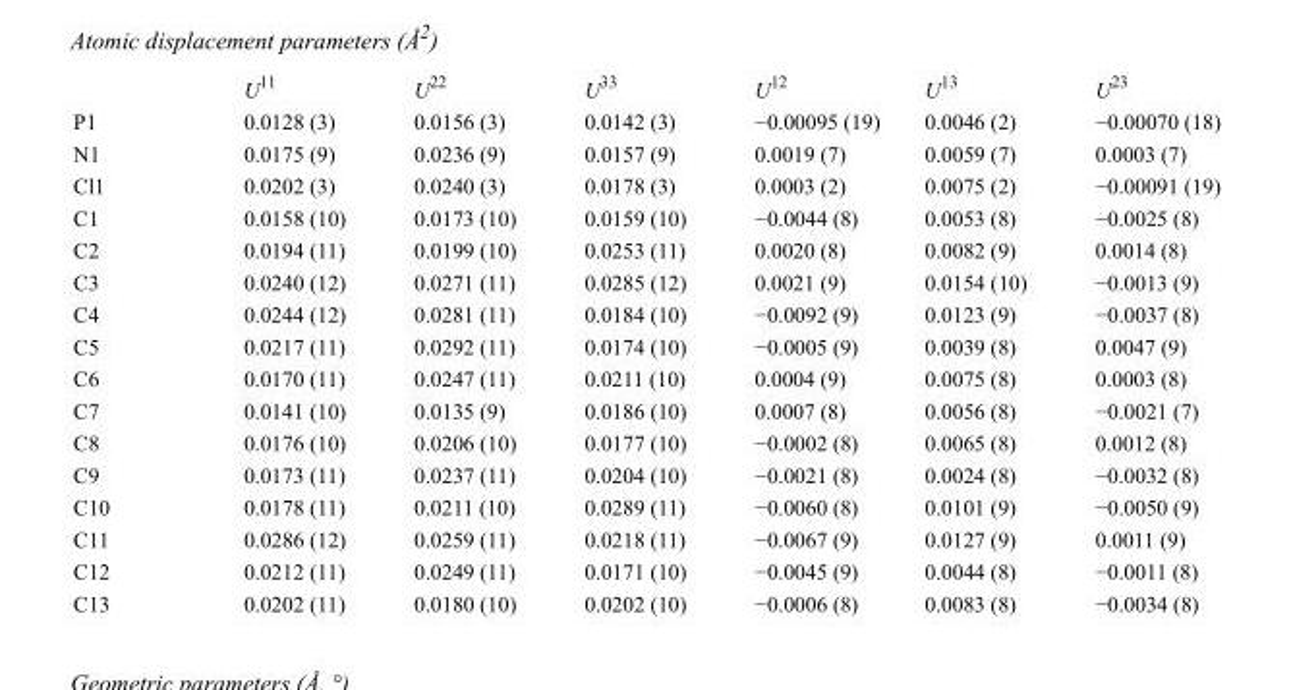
<table><thead><tr><td></td><td>U<sup>11</sup></td><td>U<sup>22</sup></td><td>U<sup>33</sup></td><td>U<sup>12</sup></td><td>U<sup>13</sup></td><td>U<sup>23</sup></td></tr></thead><tbody><tr><td>P1</td><td>0.0128 (3)</td><td>0.0156 (3)</td><td>0.0142 (3)</td><td>−0.00095 (19)</td><td>0.0046 (2)</td><td>−0.00070 (18)</td></tr><tr><td>N1</td><td>0.0175 (9)</td><td>0.0236 (9)</td><td>0.0157 (9)</td><td>0.0019 (7)</td><td>0.0059 (7)</td><td>0.0003 (7)</td></tr><tr><td>Cl1</td><td>0.0202 (3)</td><td>0.0240 (3)</td><td>0.0178 (3)</td><td>0.0003 (2)</td><td>0.0075 (2)</td><td>−0.00091 (19)</td></tr><tr><td>C1</td><td>0.0158 (10)</td><td>0.0173 (10)</td><td>0.0159 (10)</td><td>−0.0044 (8)</td><td>0.0053 (8)</td><td>−0.0025 (8)</td></tr><tr><td>C2</td><td>0.0194 (11)</td><td>0.0199 (10)</td><td>0.0253 (11)</td><td>0.0020 (8)</td><td>0.0082 (9)</td><td>0.0014 (8)</td></tr><tr><td>C3</td><td>0.0240 (12)</td><td>0.0271 (11)</td><td>0.0285 (12)</td><td>0.0021 (9)</td><td>0.0154 (10)</td><td>−0.0013 (9)</td></tr><tr><td>C4</td><td>0.0244 (12)</td><td>0.0281 (11)</td><td>0.0184 (10)</td><td>−0.0092 (9)</td><td>0.0123 (9)</td><td>−0.0037 (8)</td></tr><tr><td>C5</td><td>0.0217 (11)</td><td>0.0292 (11)</td><td>0.0174 (10)</td><td>−0.0005 (9)</td><td>0.0039 (8)</td><td>0.0047 (9)</td></tr><tr><td>C6</td><td>0.0170 (11)</td><td>0.0247 (11)</td><td>0.0211 (10)</td><td>0.0004 (9)</td><td>0.0075 (8)</td><td>0.0003 (8)</td></tr><tr><td>C7</td><td>0.0141 (10)</td><td>0.0135 (9)</td><td>0.0186 (10)</td><td>0.0007 (8)</td><td>0.0056 (8)</td><td>−0.0021 (7)</td></tr><tr><td>C8</td><td>0.0176 (10)</td><td>0.0206 (10)</td><td>0.0177 (10)</td><td>−0.0002 (8)</td><td>0.0065 (8)</td><td>0.0012 (8)</td></tr><tr><td>C9</td><td>0.0173 (11)</td><td>0.0237 (11)</td><td>0.0204 (10)</td><td>−0.0021 (8)</td><td>0.0024 (8)</td><td>−0.0032 (8)</td></tr><tr><td>C10</td><td>0.0178 (11)</td><td>0.0211 (10)</td><td>0.0289 (11)</td><td>−0.0060 (8)</td><td>0.0101 (9)</td><td>−0.0050 (9)</td></tr><tr><td>C11</td><td>0.0286 (12)</td><td>0.0259 (11)</td><td>0.0218 (11)</td><td>−0.0067 (9)</td><td>0.0127 (9)</td><td>0.0011 (9)</td></tr><tr><td>C12</td><td>0.0212 (11)</td><td>0.0249 (11)</td><td>0.0171 (10)</td><td>−0.0045 (9)</td><td>0.0044 (8)</td><td>−0.0011 (8)</td></tr><tr><td>C13</td><td>0.0202 (11)</td><td>0.0180 (10)</td><td>0.0202 (10)</td><td>−0.0006 (8)</td><td>0.0083 (8)</td><td>−0.0034 (8)</td></tr></tbody></table>